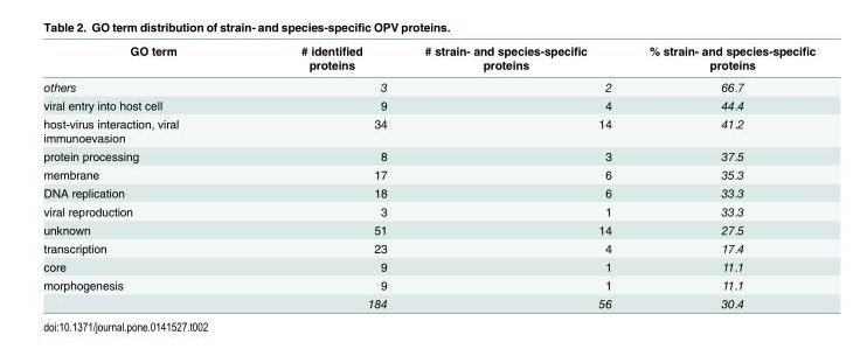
<table><thead><tr><td>GO term</td><td># identified proteins</td><td># strain- and species-specific proteins</td><td>% strain- and species-specific proteins</td></tr></thead><tbody><tr><td>others</td><td>3</td><td>2</td><td>66.7</td></tr><tr><td>viral entry into host cell</td><td>9</td><td>4</td><td>44.4</td></tr><tr><td>host-virus interaction, viral immunoevasion</td><td>34</td><td>14</td><td>41.2</td></tr><tr><td>protein processing</td><td>8</td><td>3</td><td>37.5</td></tr><tr><td>membrane</td><td>17</td><td>6</td><td>35.3</td></tr><tr><td>DNA replication</td><td>18</td><td>6</td><td>33.3</td></tr><tr><td>viral reproduction</td><td>3</td><td>1</td><td>33.3</td></tr><tr><td>unknown</td><td>51</td><td>14</td><td>27.5</td></tr><tr><td>transcription</td><td>23</td><td>4</td><td>17.4</td></tr><tr><td>core</td><td>9</td><td>1</td><td>11.1</td></tr><tr><td rowspan="2">morphogenesis</td><td>9</td><td>1</td><td>11.1</td></tr><tr><td>184</td><td>56</td><td>30.4</td></tr></tbody></table>